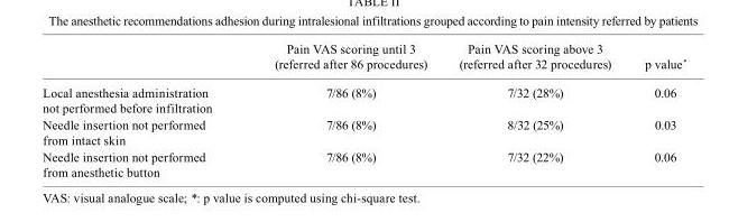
<table><thead><tr><td></td><td>Pain VAS scoring until 3 (referred after 86 procedures)</td><td>Pain VAS scoring above 3 (referred after 32 procedures)</td><td>p value*</td></tr></thead><tbody><tr><td>Local anesthesia administration not performed before infiltration</td><td>7/86 (8%)</td><td>7/32 (28%)</td><td>0.06</td></tr><tr><td>Needle insertion not performed from intact skin</td><td>7/86 (8%)</td><td>8/32 (25%)</td><td>0.03</td></tr><tr><td>Needle insertion not performed from anesthetic button</td><td>7/86 (8%)</td><td>7/32 (22%)</td><td>0.06</td></tr></tbody></table>